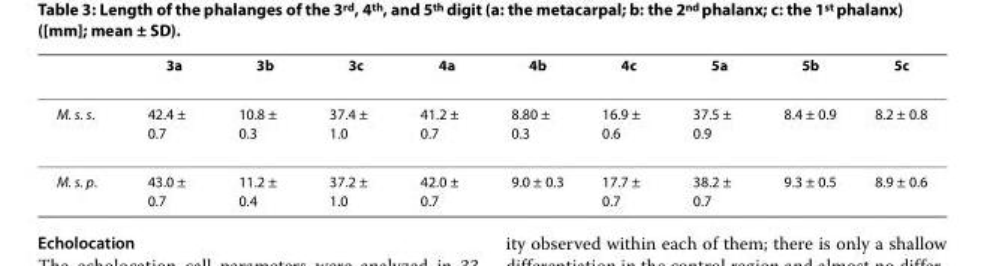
<table><thead><tr><td></td><td>3a</td><td>3b</td><td>3c</td><td>4a</td><td>4b</td><td>4c</td><td>5a</td><td>5b</td><td>5c</td></tr></thead><tbody><tr><td>M. s. s.</td><td>42.4 ± 0.7</td><td>10.8 ± 0.3</td><td>37.4 ± 1.0</td><td>41.2 ± 0.7</td><td>8.80 ± 0.3</td><td>16.9 ± 0.6</td><td>37.5 ± 0.9</td><td>8.4 ± 0.9</td><td>8.2 ± 0.8</td></tr><tr><td>M. s. p.</td><td>43.0 ± 0.7</td><td>11.2 ± 0.4</td><td>37.2 ± 1.0</td><td>42.0 ± 0.7</td><td>9.0 ± 0.3</td><td>17.7 ± 0.7</td><td>38.2 ± 0.7</td><td>9.3 ± 0.5</td><td>8.9 ± 0.6</td></tr></tbody></table>